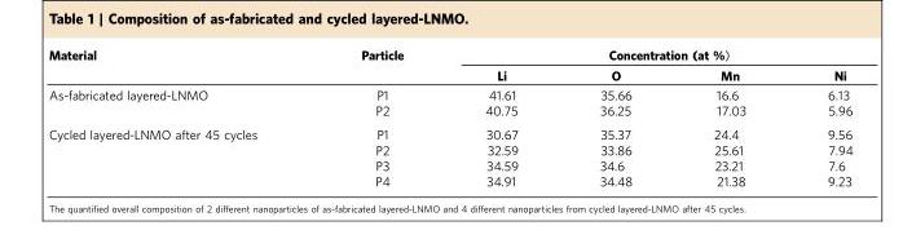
<table><thead><tr><td rowspan="2">Material</td><td rowspan="2">Particle</td><td colspan="4">Concentration (at %)</td></tr><tr><td>Li</td><td>O</td><td>Mn</td><td>Ni</td></tr></thead><tbody><tr><td rowspan="2">As-fabricated layered-LNMO</td><td>P1</td><td>41.61</td><td>35.66</td><td>16.6</td><td>6.13</td></tr><tr><td>P2</td><td>40.75</td><td>36.25</td><td>17.03</td><td>5.96</td></tr><tr><td rowspan="4">Cycled layered-LNMO after 45 cycles</td><td>P1</td><td>30.67</td><td>35.37</td><td>24.4</td><td>9.56</td></tr><tr><td>P2</td><td>32.59</td><td>33.86</td><td>25.61</td><td>7.94</td></tr><tr><td>P3</td><td>34.59</td><td>34.6</td><td>23.21</td><td>7.6</td></tr><tr><td>P4</td><td>34.91</td><td>34.48</td><td>21.38</td><td>9.23</td></tr></tbody></table>